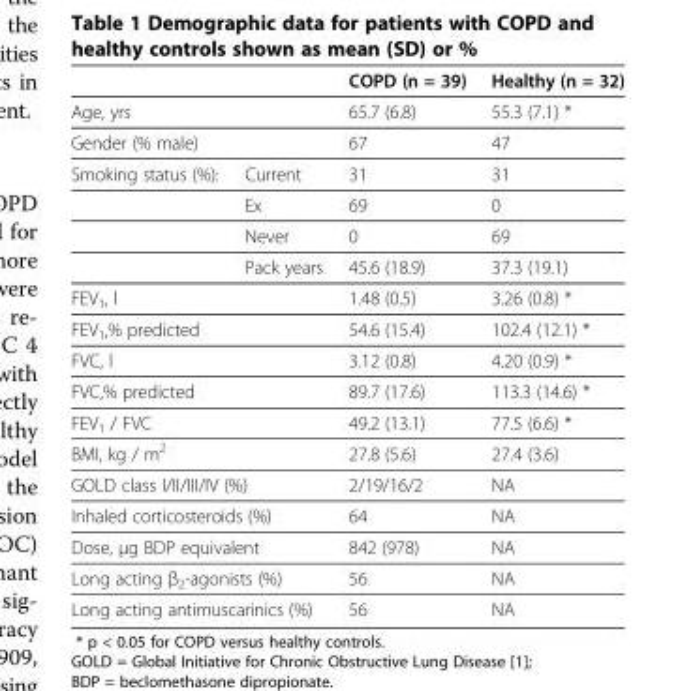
<table><thead><tr><td></td><td></td><td>COPD (n = 39)</td><td>Healthy (n = 32)</td></tr></thead><tbody><tr><td colspan="2">Age, yrs</td><td>65.7 (6.8)</td><td>55.3 (7.1) *</td></tr><tr><td colspan="2">Gender (% male)</td><td>67</td><td>47</td></tr><tr><td rowspan="4">Smoking status (%):</td><td>Current</td><td>31</td><td>31</td></tr><tr><td>Ex</td><td>69</td><td>0</td></tr><tr><td>Never</td><td>0</td><td>69</td></tr><tr><td>Pack years</td><td>45.6 (18.9)</td><td>37.3 (19.1)</td></tr><tr><td colspan="2">FEV<sub>1</sub>, l</td><td>1.48 (0.5)</td><td>3.26 (0.8) *</td></tr><tr><td colspan="2">FEV<sub>1</sub>,% predicted</td><td>54.6 (15.4)</td><td>102.4 (12.1) *</td></tr><tr><td colspan="2">FVC, l</td><td>3.12 (0.8)</td><td>4.20 (0.9) *</td></tr><tr><td colspan="2">FVC,% predicted</td><td>89.7 (17.6)</td><td>113.3 (14.6) *</td></tr><tr><td colspan="2">FEV<sub>1</sub> / FVC</td><td>49.2 (13.1)</td><td>77.5 (6.6) *</td></tr><tr><td colspan="2">BMI, kg / m<sup>2</sup></td><td>27.8 (5.6)</td><td>27.4 (3.6)</td></tr><tr><td colspan="2">GOLD class I/II/III/IV (%)</td><td>2/19/16/2</td><td>NA</td></tr><tr><td colspan="2">Inhaled corticosteroids (%)</td><td>64</td><td>NA</td></tr><tr><td colspan="2">Dose, μg BDP equivalent</td><td>842 (978)</td><td>NA</td></tr><tr><td colspan="2">Long acting β<sub>2</sub>-agonists (%)</td><td>56</td><td>NA</td></tr><tr><td colspan="2">Long acting antimuscarinics (%)</td><td>56</td><td>NA</td></tr></tbody></table>